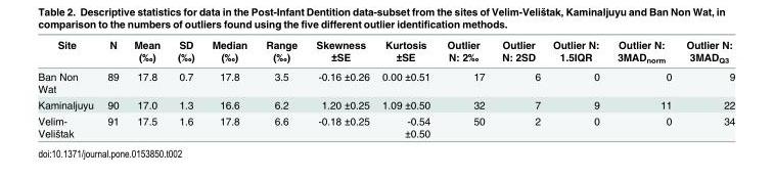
<table><thead><tr><td>Site</td><td>N</td><td>Mean (‰)</td><td>SD (‰)</td><td>Median (‰)</td><td>Range (‰)</td><td>Skewness ±SE</td><td>Kurtosis ±SE</td><td>Outlier N: 2‰</td><td>Outlier N: 2SD</td><td>Outlier N: 1.5IQR</td><td>Outlier N: 3MAD<sub>norm</sub></td><td>Outlier N: 3MAD<sub>Q3</sub></td></tr></thead><tbody><tr><td>Ban Non Wat</td><td>89</td><td>17.8</td><td>0.7</td><td>17.8</td><td>3.5</td><td>-0.16 ±0.26</td><td>0.00 ±0.51</td><td>17</td><td>6</td><td>0</td><td>0</td><td>9</td></tr><tr><td>Kaminaljuyu</td><td>90</td><td>17.0</td><td>1.3</td><td>16.6</td><td>6.2</td><td>1.20 ±0.25</td><td>1.09 ±0.50</td><td>32</td><td>7</td><td>9</td><td>11</td><td>22</td></tr><tr><td>Velim- Velištak</td><td>91</td><td>17.5</td><td>1.6</td><td>17.8</td><td>6.6</td><td>-0.18 ±0.25</td><td>-0.54 ±0.50</td><td>50</td><td>2</td><td>0</td><td>0</td><td>34</td></tr></tbody></table>